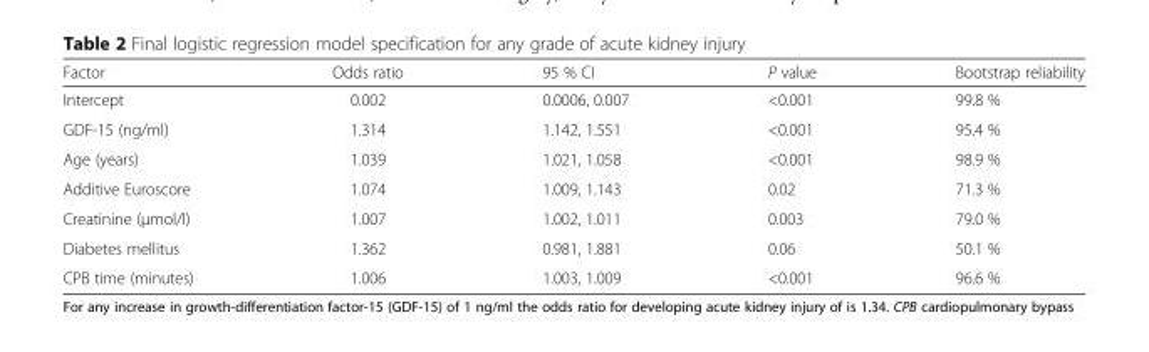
<table><thead><tr><td>Factor</td><td>Odds ratio</td><td>95 % CI</td><td>P value</td><td>Bootstrap reliability</td></tr></thead><tbody><tr><td>Intercept</td><td>0.002</td><td>0.0006, 0.007</td><td>&lt;0.001</td><td>99.8 %</td></tr><tr><td>GDF-15 (ng/ml)</td><td>1.314</td><td>1.142, 1.551</td><td>&lt;0.001</td><td>95.4 %</td></tr><tr><td>Age (years)</td><td>1.039</td><td>1.021, 1.058</td><td>&lt;0.001</td><td>98.9 %</td></tr><tr><td>Additive Euroscore</td><td>1.074</td><td>1.009, 1.143</td><td>0.02</td><td>71.3 %</td></tr><tr><td>Creatinine (μmol/l)</td><td>1.007</td><td>1.002, 1.011</td><td>0.003</td><td>79.0 %</td></tr><tr><td>Diabetes mellitus</td><td>1.362</td><td>0.981, 1.881</td><td>0.06</td><td>50.1 %</td></tr><tr><td>CPB time (minutes)</td><td>1.006</td><td>1.003, 1.009</td><td>&lt;0.001</td><td>96.6 %</td></tr></tbody></table>